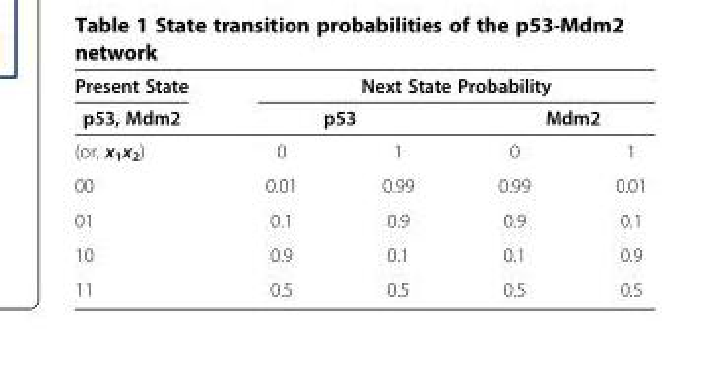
<table><thead><tr><td rowspan="3">Present State p53, Mdm2 (or, x<sub>1</sub>x<sub>2</sub>)</td><td colspan="4">Next State Probability</td></tr><tr><td colspan="2">p53</td><td colspan="2">Mdm2</td></tr><tr><td>0</td><td>1</td><td>0</td><td>1</td></tr></thead><tbody><tr><td>00</td><td>0.01</td><td>0.99</td><td>0.99</td><td>0.01</td></tr><tr><td>01</td><td>0.1</td><td>0.9</td><td>0.9</td><td>0.1</td></tr><tr><td>10</td><td>0.9</td><td>0.1</td><td>0.1</td><td>0.9</td></tr><tr><td>11</td><td>0.5</td><td>0.5</td><td>0.5</td><td>0.5</td></tr></tbody></table>